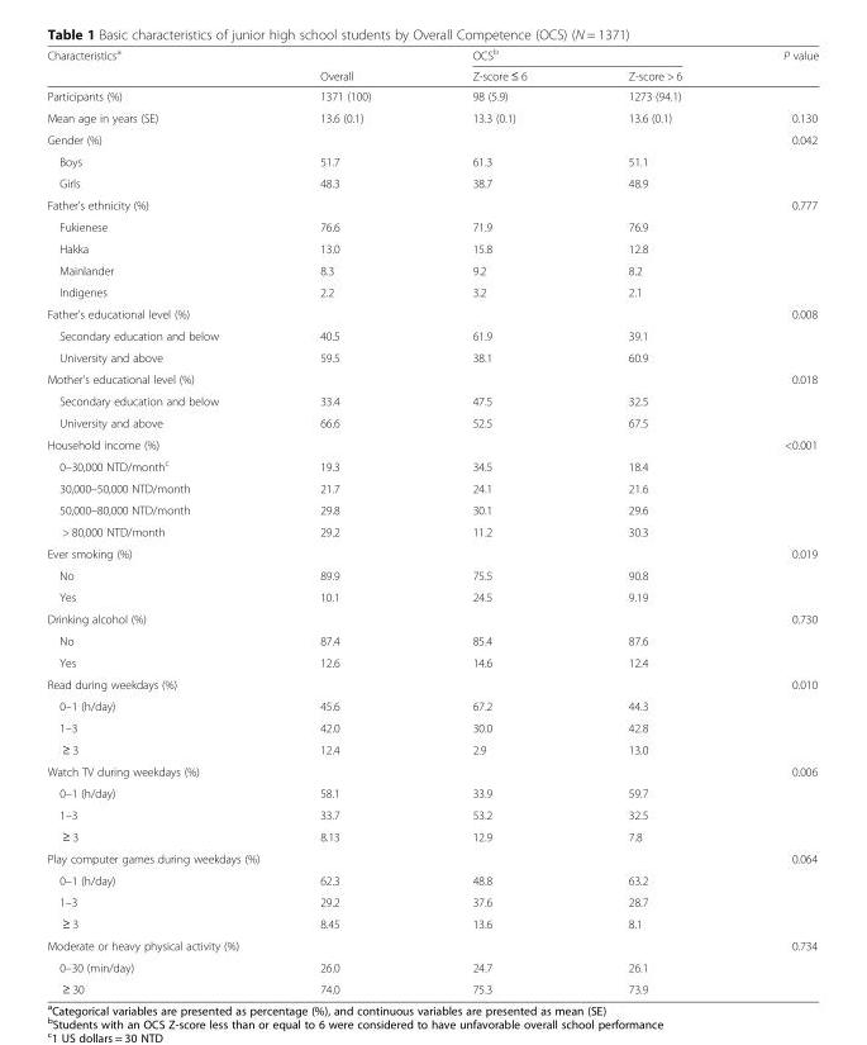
<table><thead><tr><td rowspan="2">Characteristics<sup>a</sup></td><td rowspan="2">Overall</td><td colspan="2">OCS<sup>b</sup></td><td rowspan="2">P value</td></tr><tr><td>Z-score ≤ 6</td><td>Z-score &gt; 6</td></tr></thead><tbody><tr><td>Participants (%)</td><td>1371 (100)</td><td>98 (5.9)</td><td>1273 (94.1)</td><td></td></tr><tr><td>Mean age in years (SE)</td><td>13.6 (0.1)</td><td>13.3 (0.1)</td><td>13.6 (0.1)</td><td>0.130</td></tr><tr><td colspan="4">Gender (%)</td><td>0.042</td></tr><tr><td>Boys</td><td>51.7</td><td>61.3</td><td>51.1</td><td></td></tr><tr><td>Girls</td><td>48.3</td><td>38.7</td><td>48.9</td><td></td></tr><tr><td colspan="4">Father’s ethnicity (%)</td><td>0.777</td></tr><tr><td>Fukienese</td><td>76.6</td><td>71.9</td><td>76.9</td><td></td></tr><tr><td>Hakka</td><td>13.0</td><td>15.8</td><td>12.8</td><td></td></tr><tr><td>Mainlander</td><td>8.3</td><td>9.2</td><td>8.2</td><td></td></tr><tr><td>Indigenes</td><td>2.2</td><td>3.2</td><td>2.1</td><td></td></tr><tr><td colspan="4">Father’s educational level (%)</td><td>0.008</td></tr><tr><td>Secondary education and below</td><td>40.5</td><td>61.9</td><td>39.1</td><td></td></tr><tr><td>University and above</td><td>59.5</td><td>38.1</td><td>60.9</td><td></td></tr><tr><td colspan="4">Mother’s educational level (%)</td><td>0.018</td></tr><tr><td>Secondary education and below</td><td>33.4</td><td>47.5</td><td>32.5</td><td></td></tr><tr><td>University and above</td><td>66.6</td><td>52.5</td><td>67.5</td><td></td></tr><tr><td colspan="4">Household income (%)</td><td>&lt;0.001</td></tr><tr><td>0–30,000 NTD/month<sup>c</sup></td><td>19.3</td><td>34.5</td><td>18.4</td><td></td></tr><tr><td>30,000–50,000 NTD/month</td><td>21.7</td><td>24.1</td><td>21.6</td><td></td></tr><tr><td>50,000–80,000 NTD/month</td><td>29.8</td><td>30.1</td><td>29.6</td><td></td></tr><tr><td>&gt; 80,000 NTD/month</td><td>29.2</td><td>11.2</td><td>30.3</td><td></td></tr><tr><td colspan="4">Ever smoking (%)</td><td>0.019</td></tr><tr><td>No</td><td>89.9</td><td>75.5</td><td>90.8</td><td></td></tr><tr><td>Yes</td><td>10.1</td><td>24.5</td><td>9.19</td><td></td></tr><tr><td colspan="4">Drinking alcohol (%)</td><td>0.730</td></tr><tr><td>No</td><td>87.4</td><td>85.4</td><td>87.6</td><td></td></tr><tr><td>Yes</td><td>12.6</td><td>14.6</td><td>12.4</td><td></td></tr><tr><td colspan="4">Read during weekdays (%)</td><td>0.010</td></tr><tr><td>0–1 (h/day)</td><td>45.6</td><td>67.2</td><td>44.3</td><td></td></tr><tr><td>1–3</td><td>42.0</td><td>30.0</td><td>42.8</td><td></td></tr><tr><td>≥ 3</td><td>12.4</td><td>2.9</td><td>13.0</td><td></td></tr><tr><td colspan="4">Watch TV during weekdays (%)</td><td>0.006</td></tr><tr><td>0–1 (h/day)</td><td>58.1</td><td>33.9</td><td>59.7</td><td></td></tr><tr><td>1–3</td><td>33.7</td><td>53.2</td><td>32.5</td><td></td></tr><tr><td>≥ 3</td><td>8.13</td><td>12.9</td><td>7.8</td><td></td></tr><tr><td colspan="4">Play computer games during weekdays (%)</td><td>0.064</td></tr><tr><td>0–1 (h/day)</td><td>62.3</td><td>48.8</td><td>63.2</td><td></td></tr><tr><td>1–3</td><td>29.2</td><td>37.6</td><td>28.7</td><td></td></tr><tr><td>≥ 3</td><td>8.45</td><td>13.6</td><td>8.1</td><td></td></tr><tr><td colspan="4">Moderate or heavy physical activity (%)</td><td>0.734</td></tr><tr><td>0–30 (min/day)</td><td>26.0</td><td>24.7</td><td>26.1</td><td></td></tr><tr><td>≥ 30</td><td>74.0</td><td>75.3</td><td>73.9</td><td></td></tr></tbody></table>